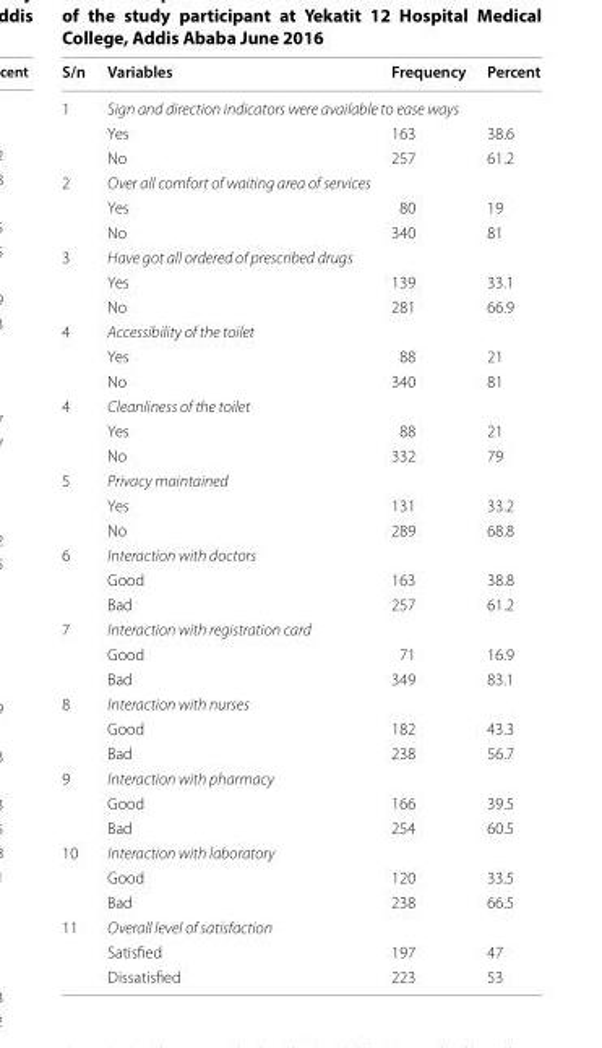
<table><thead><tr><td>S/n</td><td>Variables</td><td>Frequency</td><td>Percent</td></tr></thead><tbody><tr><td rowspan="3">1</td><td colspan="3">Sign and direction indicators were available to ease ways</td></tr><tr><td>Yes</td><td>163</td><td>38.6</td></tr><tr><td>No</td><td>257</td><td>61.2</td></tr><tr><td rowspan="3">2</td><td colspan="3">Over all comfort of waiting area of services</td></tr><tr><td>Yes</td><td>80</td><td>19</td></tr><tr><td>No</td><td>340</td><td>81</td></tr><tr><td rowspan="3">3</td><td colspan="3">Have got all ordered of prescribed drugs</td></tr><tr><td>Yes</td><td>139</td><td>33.1</td></tr><tr><td>No</td><td>281</td><td>66.9</td></tr><tr><td rowspan="3">4</td><td colspan="3">Accessibility of the toilet</td></tr><tr><td>Yes</td><td>88</td><td>21</td></tr><tr><td>No</td><td>340</td><td>81</td></tr><tr><td rowspan="3">4</td><td colspan="3">Cleanliness of the toilet</td></tr><tr><td>Yes</td><td>88</td><td>21</td></tr><tr><td>No</td><td>332</td><td>79</td></tr><tr><td rowspan="3">5</td><td colspan="3">Privacy maintained</td></tr><tr><td>Yes</td><td>131</td><td>33.2</td></tr><tr><td>No</td><td>289</td><td>68.8</td></tr><tr><td rowspan="3">6</td><td colspan="3">Interaction with doctors</td></tr><tr><td>Good</td><td>163</td><td>38.8</td></tr><tr><td>Bad</td><td>257</td><td>61.2</td></tr><tr><td rowspan="3">7</td><td colspan="3">Interaction with registration card</td></tr><tr><td>Good</td><td>71</td><td>16.9</td></tr><tr><td>Bad</td><td>349</td><td>83.1</td></tr><tr><td rowspan="3">8</td><td colspan="3">Interaction with nurses</td></tr><tr><td>Good</td><td>182</td><td>43.3</td></tr><tr><td>Bad</td><td>238</td><td>56.7</td></tr><tr><td rowspan="3">9</td><td colspan="3">Interaction with pharmacy</td></tr><tr><td>Good</td><td>166</td><td>39.5</td></tr><tr><td>Bad</td><td>254</td><td>60.5</td></tr><tr><td rowspan="3">10</td><td colspan="3">Interaction with laboratory</td></tr><tr><td>Good</td><td>120</td><td>33.5</td></tr><tr><td>Bad</td><td>238</td><td>66.5</td></tr><tr><td rowspan="3">11</td><td colspan="3">Overall level of satisfaction</td></tr><tr><td>Satisfied</td><td>197</td><td>47</td></tr><tr><td>Dissatisfied</td><td>223</td><td>53</td></tr></tbody></table>